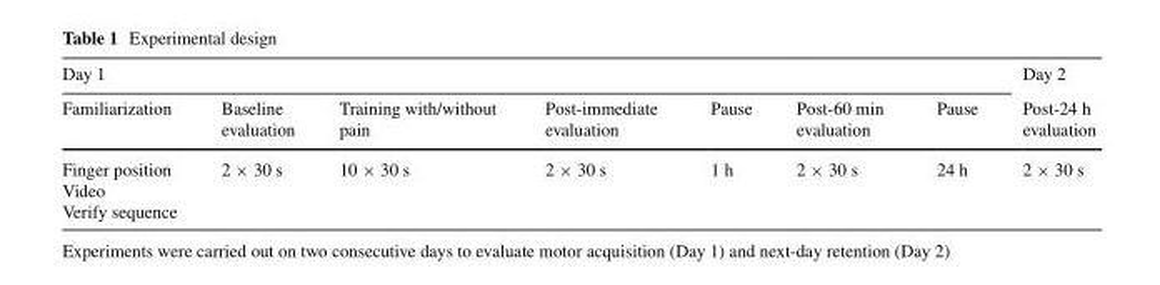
<table><thead><tr><td colspan="7">Day 1</td><td rowspan="2">Day 2 Post-24 h evaluation</td></tr><tr><td>Familiarization</td><td>Baseline evaluation</td><td>Training with/without pain</td><td>Post-immediate evaluation</td><td>Pause</td><td>Post-60 min evaluation</td><td>Pause</td></tr></thead><tbody><tr><td>Finger position Video Verify sequence</td><td>2 × 30 s</td><td>10 × 30 s</td><td>2 × 30 s</td><td>1 h</td><td>2 × 30 s</td><td>24 h</td><td>2 × 30 s</td></tr></tbody></table>